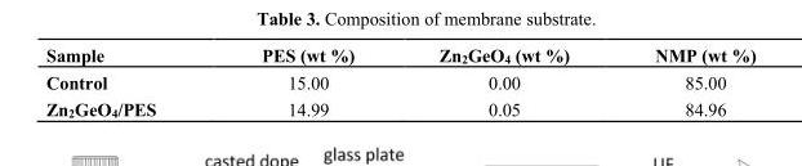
<table><thead><tr><td>Sample</td><td>PES (wt %)</td><td>Zn<sub>2</sub>GeO<sub>4</sub> (wt %)</td><td>NMP (wt %)</td></tr></thead><tbody><tr><td>Control</td><td>15.00</td><td>0.00</td><td>85.00</td></tr><tr><td>Zn<sub>2</sub>GeO<sub>4</sub>/PES</td><td>14.99</td><td>0.05</td><td>84.96</td></tr></tbody></table>